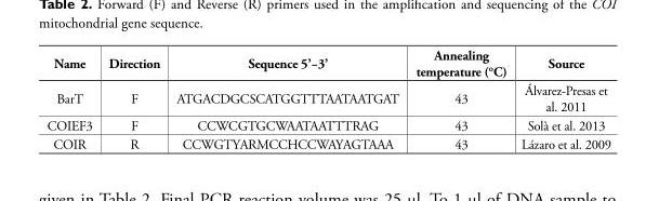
<table><thead><tr><td>Name</td><td>Direction</td><td>Sequence 5’−3’</td><td>Annealing temperature (°C)</td><td>Source</td></tr></thead><tbody><tr><td>BarT</td><td>F</td><td>ATGACDGCSCATGGTTTAATAATGAT</td><td>43</td><td>Álvarez-Presas et al. 2011</td></tr><tr><td>COIEF3</td><td>F</td><td>CCWCGTGCWAATAATTTRAG</td><td>43</td><td>Solà et al. 2013</td></tr><tr><td>COIR</td><td>R</td><td>CCWGTYARMCCHCCWAYAGTAAA</td><td>43</td><td>Lázaro et al. 2009</td></tr></tbody></table>